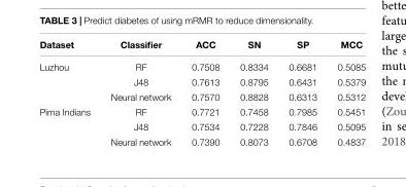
<table><thead><tr><td>Dataset</td><td>Classifier</td><td>ACC</td><td>SN</td><td>SP</td><td>MCC</td></tr></thead><tbody><tr><td rowspan="3">Luzhou</td><td>RF</td><td>0.7508</td><td>0.8334</td><td>0.6681</td><td>0.5085</td></tr><tr><td>J48</td><td>0.7613</td><td>0.8795</td><td>0.6431</td><td>0.5379</td></tr><tr><td>Neural network</td><td>0.7570</td><td>0.8828</td><td>0.6313</td><td>0.5312</td></tr><tr><td rowspan="3">Pima Indians</td><td>RF</td><td>0.7721</td><td>0.7458</td><td>0.7985</td><td>0.5451</td></tr><tr><td>J48</td><td>0.7534</td><td>0.7228</td><td>0.7846</td><td>0.5095</td></tr><tr><td>Neural network</td><td>0.7390</td><td>0.8073</td><td>0.6708</td><td>0.4837</td></tr></tbody></table>